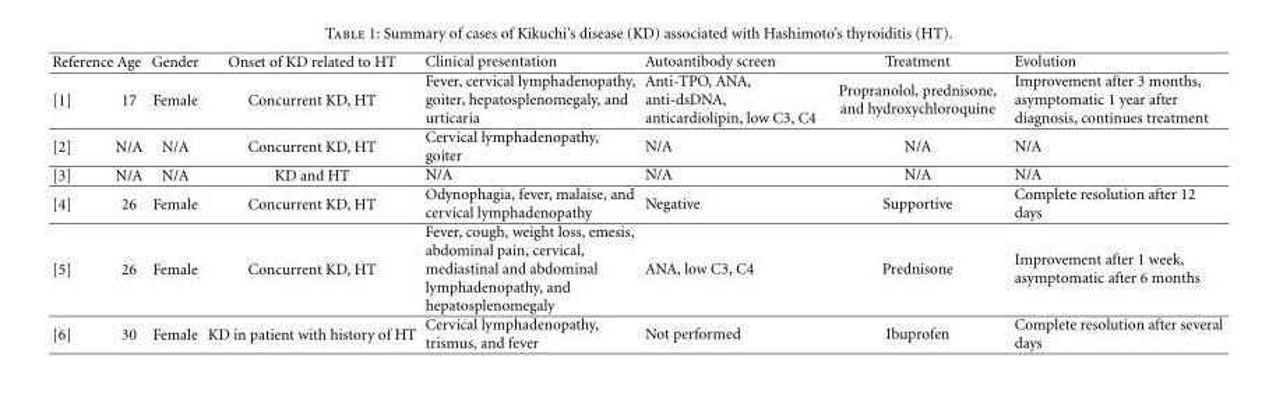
<table><thead><tr><td>Reference</td><td>Age</td><td>Gender</td><td>Onset of KD related to HT</td><td>Clinical presentation</td><td>Autoantibody screen</td><td>Treatment</td><td>Evolution</td></tr></thead><tbody><tr><td>[1]</td><td>17</td><td>Female</td><td>Concurrent KD, HT</td><td>Fever, cervical lymphadenopathy, goiter, hepatosplenomegaly, and urticaria</td><td>Anti-TPO, ANA, anti-dsDNA, anticardiolipin, low C3, C4</td><td>Propranolol, prednisone, and hydroxychloroquine</td><td>Improvement after 3 months, asymptomatic 1 year after diagnosis, continues treatment</td></tr><tr><td>[2]</td><td>N/A</td><td>N/A</td><td>Concurrent KD, HT</td><td>Cervical lymphadenopathy, goiter</td><td>N/A</td><td>N/A</td><td>N/A</td></tr><tr><td>[3]</td><td>N/A</td><td>N/A</td><td>KD and HT</td><td>N/A</td><td>N/A</td><td>N/A</td><td>N/A</td></tr><tr><td>[4]</td><td>26</td><td>Female</td><td>Concurrent KD, HT</td><td>Odynophagia, fever, malaise, and cervical lymphadenopathy</td><td>Negative</td><td>Supportive</td><td>Complete resolution after 12 days</td></tr><tr><td>[5]</td><td>26</td><td>Female</td><td>Concurrent KD, HT</td><td>Fever, cough, weight loss, emesis, abdominal pain, cervical, mediastinal and abdominal lymphadenopathy, and hepatosplenomegaly</td><td>ANA, low C3, C4</td><td>Prednisone</td><td>Improvement after 1 week, asymptomatic after 6 months</td></tr><tr><td>[6]</td><td>30</td><td>Female</td><td>KD in patient with history of HT</td><td>Cervical lymphadenopathy, trismus, and fever</td><td>Not performed</td><td>Ibuprofen</td><td>Complete resolution after several days</td></tr></tbody></table>